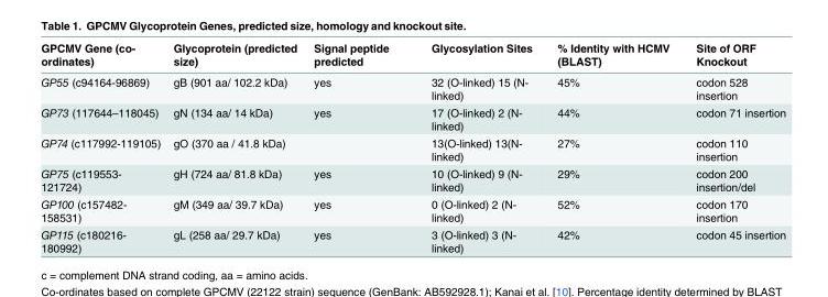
<table><thead><tr><td>GPCMV Gene (co- ordinates)</td><td>Glycoprotein (predicted size)</td><td>Signal peptide predicted</td><td>Glycosylation Sites</td><td>% Identity with HCMV (BLAST)</td><td>Site of ORF Knockout</td></tr></thead><tbody><tr><td>GP55 (c94164-96869)</td><td>gB (901 aa/ 102.2 kDa)</td><td>yes</td><td>32 (O-linked) 15 (N- linked)</td><td>45%</td><td>codon 528 insertion</td></tr><tr><td>GP73 (117644–118045)</td><td>gN (134 aa/ 14 kDa)</td><td>yes</td><td>17 (O-linked) 2 (N- linked)</td><td>44%</td><td>codon 71 insertion</td></tr><tr><td>GP74 (c117992-119105)</td><td>gO (370 aa / 41.8 kDa)</td><td></td><td>13(O-linked) 13(N- linked)</td><td>27%</td><td>codon 110 insertion</td></tr><tr><td>GP75 (c119553- 121724)</td><td>gH (724 aa/ 81.8 kDa)</td><td>yes</td><td>10 (O-linked) 9 (N- linked)</td><td>29%</td><td>codon 200 insertion/del</td></tr><tr><td>GP100 (c157482- 158531)</td><td>gM (349 aa/ 39.7 kDa)</td><td>yes</td><td>0 (O-linked) 2 (N- linked)</td><td>52%</td><td>codon 170 insertion</td></tr><tr><td>GP115 (c180216- 180992)</td><td>gL (258 aa/ 29.7 kDa)</td><td>yes</td><td>3 (O-linked) 3 (N- linked)</td><td>42%</td><td>codon 45 insertion</td></tr></tbody></table>